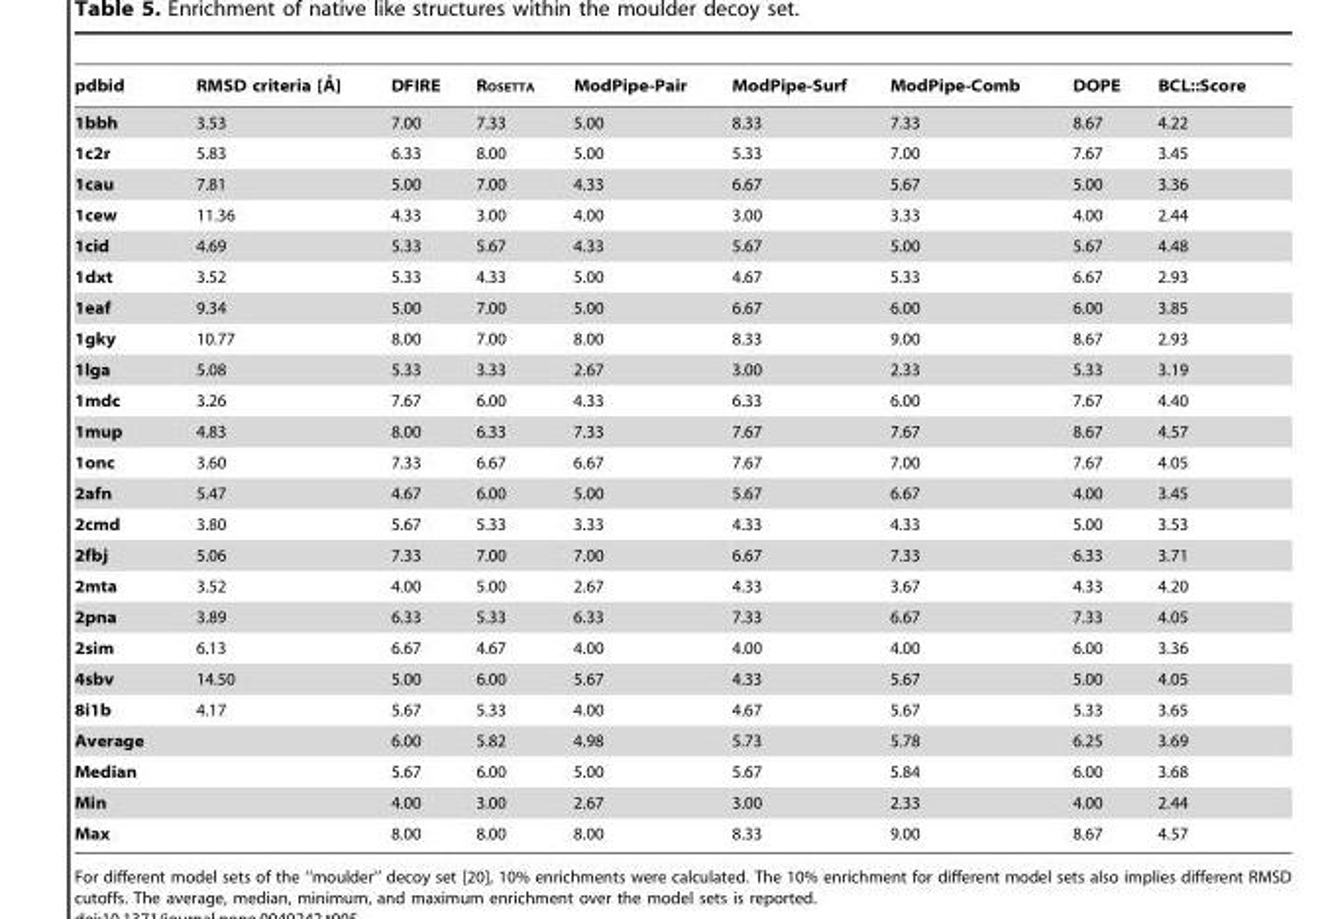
<table><thead><tr><td>pdbid</td><td>RMSD criteria [A˚]</td><td>DFIRE</td><td>ROSETTA</td><td>ModPipe-Pair</td><td>ModPipe-Surf</td><td>ModPipe-Comb</td><td>DOPE</td><td>BCL::Score</td></tr></thead><tbody><tr><td>1bbh</td><td>3.53</td><td>7.00</td><td>7.33</td><td>5.00</td><td>8.33</td><td>7.33</td><td>8.67</td><td>4.22</td></tr><tr><td>1c2r</td><td>5.83</td><td>6.33</td><td>8.00</td><td>5.00</td><td>5.33</td><td>7.00</td><td>7.67</td><td>3.45</td></tr><tr><td>1cau</td><td>7.81</td><td>5.00</td><td>7.00</td><td>4.33</td><td>6.67</td><td>5.67</td><td>5.00</td><td>3.36</td></tr><tr><td>1cew</td><td>11.36</td><td>4.33</td><td>3.00</td><td>4.00</td><td>3.00</td><td>3.33</td><td>4.00</td><td>2.44</td></tr><tr><td>1cid</td><td>4.69</td><td>5.33</td><td>5.67</td><td>4.33</td><td>5.67</td><td>5.00</td><td>5.67</td><td>4.48</td></tr><tr><td>1dxt</td><td>3.52</td><td>5.33</td><td>4.33</td><td>5.00</td><td>4.67</td><td>5.33</td><td>6.67</td><td>2.93</td></tr><tr><td>1eaf</td><td>9.34</td><td>5.00</td><td>7.00</td><td>5.00</td><td>6.67</td><td>6.00</td><td>6.00</td><td>3.85</td></tr><tr><td>1gky</td><td>10.77</td><td>8.00</td><td>7.00</td><td>8.00</td><td>8.33</td><td>9.00</td><td>8.67</td><td>2.93</td></tr><tr><td>1lga</td><td>5.08</td><td>5.33</td><td>3.33</td><td>2.67</td><td>3.00</td><td>2.33</td><td>5.33</td><td>3.19</td></tr><tr><td>1mdc</td><td>3.26</td><td>7.67</td><td>6.00</td><td>4.33</td><td>6.33</td><td>6.00</td><td>7.67</td><td>4.40</td></tr><tr><td>1mup</td><td>4.83</td><td>8.00</td><td>6.33</td><td>7.33</td><td>7.67</td><td>7.67</td><td>8.67</td><td>4.57</td></tr><tr><td>1onc</td><td>3.60</td><td>7.33</td><td>6.67</td><td>6.67</td><td>7.67</td><td>7.00</td><td>7.67</td><td>4.05</td></tr><tr><td>2afn</td><td>5.47</td><td>4.67</td><td>6.00</td><td>5.00</td><td>5.67</td><td>6.67</td><td>4.00</td><td>3.45</td></tr><tr><td>2cmd</td><td>3.80</td><td>5.67</td><td>5.33</td><td>3.33</td><td>4.33</td><td>4.33</td><td>5.00</td><td>3.53</td></tr><tr><td>2fbj</td><td>5.06</td><td>7.33</td><td>7.00</td><td>7.00</td><td>6.67</td><td>7.33</td><td>6.33</td><td>3.71</td></tr><tr><td>2mta</td><td>3.52</td><td>4.00</td><td>5.00</td><td>2.67</td><td>4.33</td><td>3.67</td><td>4.33</td><td>4.20</td></tr><tr><td>2pna</td><td>3.89</td><td>6.33</td><td>5.33</td><td>6.33</td><td>7.33</td><td>6.67</td><td>7.33</td><td>4.05</td></tr><tr><td>2sim</td><td>6.13</td><td>6.67</td><td>4.67</td><td>4.00</td><td>4.00</td><td>4.00</td><td>6.00</td><td>3.36</td></tr><tr><td>4sbv</td><td>14.50</td><td>5.00</td><td>6.00</td><td>5.67</td><td>4.33</td><td>5.67</td><td>5.00</td><td>4.05</td></tr><tr><td>8i1b</td><td>4.17</td><td>5.67</td><td>5.33</td><td>4.00</td><td>4.67</td><td>5.67</td><td>5.33</td><td>3.65</td></tr><tr><td>Average</td><td></td><td>6.00</td><td>5.82</td><td>4.98</td><td>5.73</td><td>5.78</td><td>6.25</td><td>3.69</td></tr><tr><td>Median</td><td></td><td>5.67</td><td>6.00</td><td>5.00</td><td>5.67</td><td>5.84</td><td>6.00</td><td>3.68</td></tr><tr><td>Min</td><td></td><td>4.00</td><td>3.00</td><td>2.67</td><td>3.00</td><td>2.33</td><td>4.00</td><td>2.44</td></tr><tr><td>Max</td><td></td><td>8.00</td><td>8.00</td><td>8.00</td><td>8.33</td><td>9.00</td><td>8.67</td><td>4.57</td></tr></tbody></table>